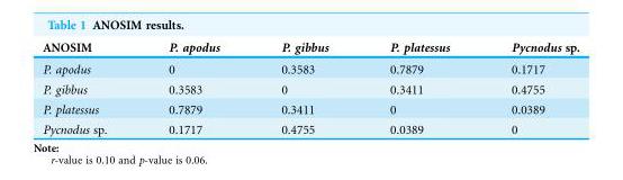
<table><thead><tr><td>ANOSIM</td><td>P. apodus</td><td>P. gibbus</td><td>P. platessus</td><td>Pycnodus sp.</td></tr></thead><tbody><tr><td>P. apodus</td><td>0</td><td>0.3583</td><td>0.7879</td><td>0.1717</td></tr><tr><td>P. gibbus</td><td>0.3583</td><td>0</td><td>0.3411</td><td>0.4755</td></tr><tr><td>P. platessus</td><td>0.7879</td><td>0.3411</td><td>0</td><td>0.0389</td></tr><tr><td>Pycnodus sp.</td><td>0.1717</td><td>0.4755</td><td>0.0389</td><td>0</td></tr></tbody></table>